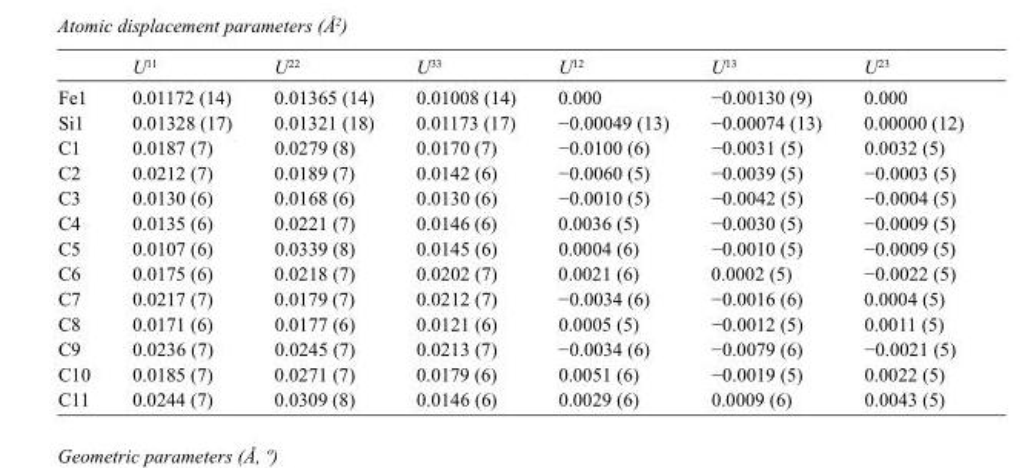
<table><thead><tr><td></td><td>U<sup>11</sup></td><td>U<sup>22</sup></td><td>U<sup>33</sup></td><td>U<sup>12</sup></td><td>U<sup>13</sup></td><td>U<sup>23</sup></td></tr></thead><tbody><tr><td>Fe1</td><td>0.01172 (14)</td><td>0.01365 (14)</td><td>0.01008 (14)</td><td>0.000</td><td>−0.00130 (9)</td><td>0.000</td></tr><tr><td>Si1</td><td>0.01328 (17)</td><td>0.01321 (18)</td><td>0.01173 (17)</td><td>−0.00049 (13)</td><td>−0.00074 (13)</td><td>0.00000 (12)</td></tr><tr><td>C1</td><td>0.0187 (7)</td><td>0.0279 (8)</td><td>0.0170 (7)</td><td>−0.0100 (6)</td><td>−0.0031 (5)</td><td>0.0032 (5)</td></tr><tr><td>C2</td><td>0.0212 (7)</td><td>0.0189 (7)</td><td>0.0142 (6)</td><td>−0.0060 (5)</td><td>−0.0039 (5)</td><td>−0.0003 (5)</td></tr><tr><td>C3</td><td>0.0130 (6)</td><td>0.0168 (6)</td><td>0.0130 (6)</td><td>−0.0010 (5)</td><td>−0.0042 (5)</td><td>−0.0004 (5)</td></tr><tr><td>C4</td><td>0.0135 (6)</td><td>0.0221 (7)</td><td>0.0146 (6)</td><td>0.0036 (5)</td><td>−0.0030 (5)</td><td>−0.0009 (5)</td></tr><tr><td>C5</td><td>0.0107 (6)</td><td>0.0339 (8)</td><td>0.0145 (6)</td><td>0.0004 (6)</td><td>−0.0010 (5)</td><td>−0.0009 (5)</td></tr><tr><td>C6</td><td>0.0175 (6)</td><td>0.0218 (7)</td><td>0.0202 (7)</td><td>0.0021 (6)</td><td>0.0002 (5)</td><td>−0.0022 (5)</td></tr><tr><td>C7</td><td>0.0217 (7)</td><td>0.0179 (7)</td><td>0.0212 (7)</td><td>−0.0034 (6)</td><td>−0.0016 (6)</td><td>0.0004 (5)</td></tr><tr><td>C8</td><td>0.0171 (6)</td><td>0.0177 (6)</td><td>0.0121 (6)</td><td>0.0005 (5)</td><td>−0.0012 (5)</td><td>0.0011 (5)</td></tr><tr><td>C9</td><td>0.0236 (7)</td><td>0.0245 (7)</td><td>0.0213 (7)</td><td>−0.0034 (6)</td><td>−0.0079 (6)</td><td>−0.0021 (5)</td></tr><tr><td>C10</td><td>0.0185 (7)</td><td>0.0271 (7)</td><td>0.0179 (6)</td><td>0.0051 (6)</td><td>−0.0019 (5)</td><td>0.0022 (5)</td></tr><tr><td>C11</td><td>0.0244 (7)</td><td>0.0309 (8)</td><td>0.0146 (6)</td><td>0.0029 (6)</td><td>0.0009 (6)</td><td>0.0043 (5)</td></tr></tbody></table>